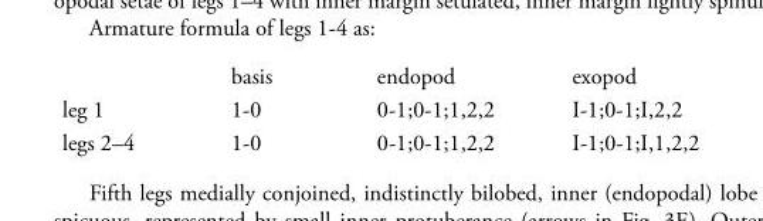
<table><thead><tr><td></td><td>basis</td><td>endopod</td><td>exopod</td></tr></thead><tbody><tr><td>leg 1</td><td>1-0</td><td>0-1;0-1;1,2,2</td><td>I-1;0-1;I,2,2</td></tr><tr><td>legs 2–4</td><td>1-0</td><td>0-1;0-1;1,2,2</td><td>I-1;0-1;I,1,2,2</td></tr></tbody></table>